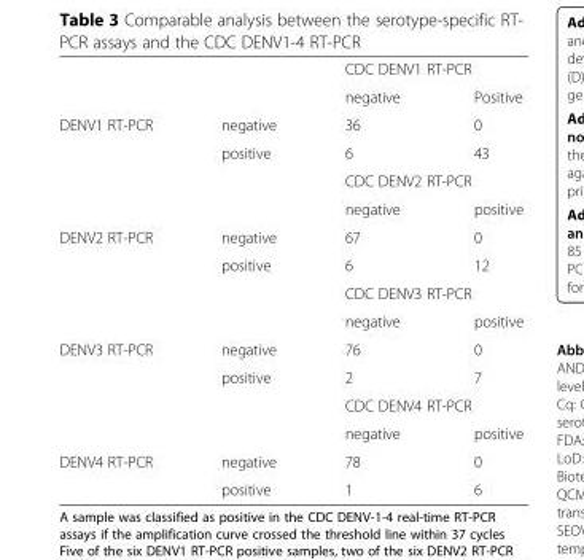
<table><thead><tr><td rowspan="2"></td><td rowspan="2"></td><td colspan="2">CDC DENV1 RT-PCR</td></tr><tr><td>negative</td><td>Positive</td></tr></thead><tbody><tr><td rowspan="4">DENV1 RT-PCR</td><td>negative</td><td>36</td><td>0</td></tr><tr><td>positive</td><td>6</td><td>43</td></tr><tr><td></td><td colspan="2">CDC DENV2 RT-PCR</td></tr><tr><td></td><td>negative</td><td>positive</td></tr><tr><td rowspan="4">DENV2 RT-PCR</td><td>negative</td><td>67</td><td>0</td></tr><tr><td>positive</td><td>6</td><td>12</td></tr><tr><td></td><td colspan="2">CDC DENV3 RT-PCR</td></tr><tr><td></td><td>negative</td><td>positive</td></tr><tr><td rowspan="4">DENV3 RT-PCR</td><td>negative</td><td>76</td><td>0</td></tr><tr><td>positive</td><td>2</td><td>7</td></tr><tr><td></td><td colspan="2">CDC DENV4 RT-PCR</td></tr><tr><td></td><td>negative</td><td>positive</td></tr><tr><td rowspan="2">DENV4 RT-PCR</td><td>negative</td><td>78</td><td>0</td></tr><tr><td>positive</td><td>1</td><td>6</td></tr></tbody></table>